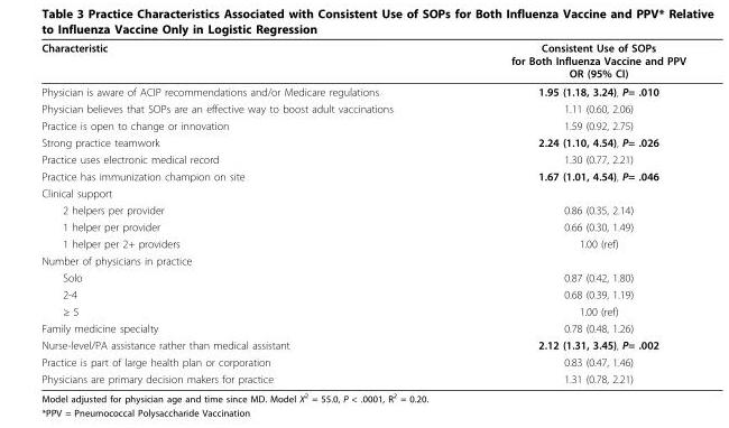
<table><thead><tr><td>Characteristic</td><td>Consistent Use of SOPs for Both Influenza Vaccine and PPV OR (95% CI)</td></tr></thead><tbody><tr><td>Physician is aware of ACIP recommendations and/or Medicare regulations</td><td>1.95 (1.18, 3.24), P= .010</td></tr><tr><td>Physician believes that SOPs are an effective way to boost adult vaccinations</td><td>1.11 (0.60, 2.06)</td></tr><tr><td>Practice is open to change or innovation</td><td>1.59 (0.92, 2.75)</td></tr><tr><td>Strong practice teamwork</td><td>2.24 (1.10, 4.54), P= .026</td></tr><tr><td>Practice uses electronic medical record</td><td>1.30 (0.77, 2.21)</td></tr><tr><td>Practice has immunization champion on site</td><td>1.67 (1.01, 4.54), P= .046</td></tr><tr><td colspan="2">Clinical support</td></tr><tr><td>2 helpers per provider</td><td>0.86 (0.35, 2.14)</td></tr><tr><td>1 helper per provider</td><td>0.66 (0.30, 1.49)</td></tr><tr><td>1 helper per 2+ providers</td><td>1.00 (ref)</td></tr><tr><td colspan="2">Number of physicians in practice</td></tr><tr><td>Solo</td><td>0.87 (0.42, 1.80)</td></tr><tr><td>2-4</td><td>0.68 (0.39, 1.19)</td></tr><tr><td>≥ 5</td><td>1.00 (ref)</td></tr><tr><td>Family medicine specialty</td><td>0.78 (0.48, 1.26)</td></tr><tr><td>Nurse-level/PA assistance rather than medical assistant</td><td>2.12 (1.31, 3.45), P= .002</td></tr><tr><td>Practice is part of large health plan or corporation</td><td>0.83 (0.47, 1.46)</td></tr><tr><td>Physicians are primary decision makers for practice</td><td>1.31 (0.78, 2.21)</td></tr></tbody></table>